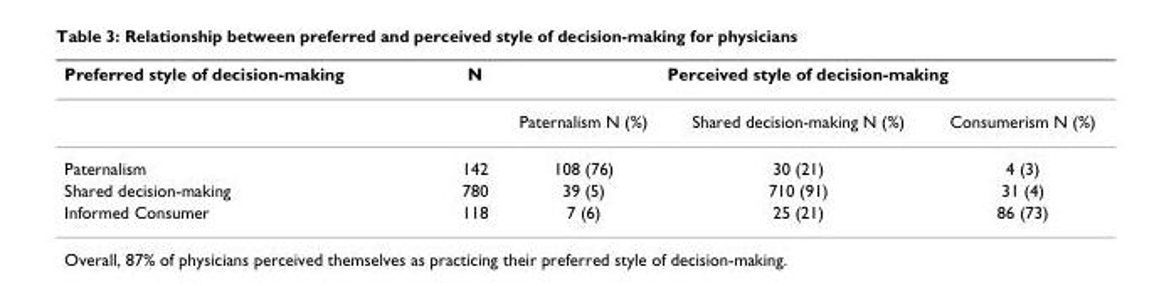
<table><thead><tr><td rowspan="2">Preferred style of decision-making</td><td rowspan="2">N</td><td colspan="3">Perceived style of decision-making</td></tr><tr><td>Paternalism N (%)</td><td>Shared decision-making N (%)</td><td>Consumerism N (%)</td></tr></thead><tbody><tr><td>Paternalism</td><td>142</td><td>108 (76)</td><td>30 (21)</td><td>4 (3)</td></tr><tr><td>Shared decision-making</td><td>780</td><td>39 (5)</td><td>710 (91)</td><td>31 (4)</td></tr><tr><td>Informed Consumer</td><td>118</td><td>7 (6)</td><td>25 (21)</td><td>86 (73)</td></tr></tbody></table>